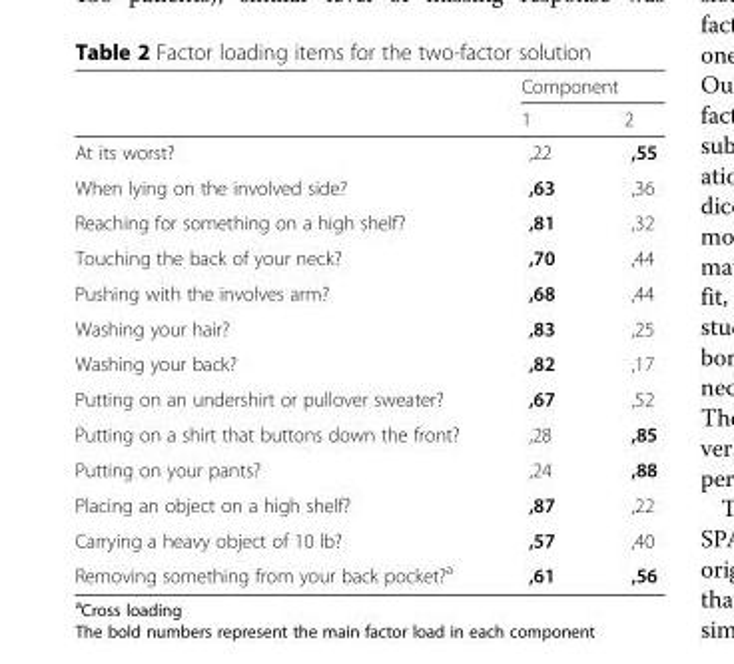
<table><thead><tr><td rowspan="2"></td><td colspan="2">Component</td></tr><tr><td>1</td><td>2</td></tr></thead><tbody><tr><td>At its worst?</td><td>,22</td><td>,55</td></tr><tr><td>When lying on the involved side?</td><td>,63</td><td>,36</td></tr><tr><td>Reaching for something on a high shelf?</td><td>,81</td><td>,32</td></tr><tr><td>Touching the back of your neck?</td><td>,70</td><td>,44</td></tr><tr><td>Pushing with the involves arm?</td><td>,68</td><td>,44</td></tr><tr><td>Washing your hair?</td><td>,83</td><td>,25</td></tr><tr><td>Washing your back?</td><td>,82</td><td>,17</td></tr><tr><td>Putting on an undershirt or pullover sweater?</td><td>,67</td><td>,52</td></tr><tr><td>Putting on a shirt that buttons down the front?</td><td>,28</td><td>,85</td></tr><tr><td>Putting on your pants?</td><td>,24</td><td>,88</td></tr><tr><td>Placing an object on a high shelf?</td><td>,87</td><td>,22</td></tr><tr><td>Carrying a heavy object of 10 lb?</td><td>,57</td><td>,40</td></tr><tr><td>Removing something from your back pocket?<sup>a</sup></td><td>,61</td><td>,56</td></tr></tbody></table>